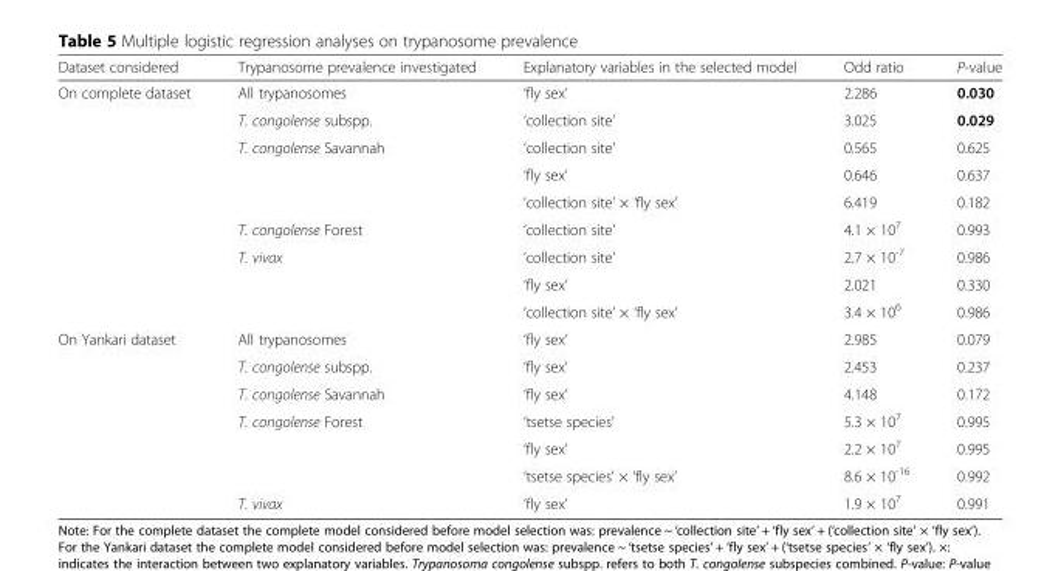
<table><thead><tr><td>Dataset considered</td><td>Trypanosome prevalence investigated</td><td>Explanatory variables in the selected model</td><td>Odd ratio</td><td>P-value</td></tr></thead><tbody><tr><td rowspan="9">On complete dataset</td><td>All trypanosomes</td><td>‘fly sex’</td><td>2.286</td><td>0.030</td></tr><tr><td>T. congolense subspp.</td><td>‘collection site’</td><td>3.025</td><td>0.029</td></tr><tr><td rowspan="3">T. congolense Savannah</td><td>‘collection site’</td><td>0.565</td><td>0.625</td></tr><tr><td>‘fly sex’</td><td>0.646</td><td>0.637</td></tr><tr><td>‘collection site’ × ‘fly sex’</td><td>6.419</td><td>0.182</td></tr><tr><td>T. congolense Forest</td><td>‘collection site’</td><td>4.1 × 10<sup>7</sup></td><td>0.993</td></tr><tr><td rowspan="3">T. vivax</td><td>‘collection site’</td><td>2.7 × 10<sup>-7</sup></td><td>0.986</td></tr><tr><td>‘fly sex’</td><td>2.021</td><td>0.330</td></tr><tr><td>‘collection site’ × ‘fly sex’</td><td>3.4 × 10<sup>6</sup></td><td>0.986</td></tr><tr><td rowspan="7">On Yankari dataset</td><td>All trypanosomes</td><td>‘fly sex’</td><td>2.985</td><td>0.079</td></tr><tr><td>T. congolense subspp.</td><td>‘fly sex’</td><td>2.453</td><td>0.237</td></tr><tr><td>T. congolense Savannah</td><td>‘fly sex’</td><td>4.148</td><td>0.172</td></tr><tr><td rowspan="3">T. congolense Forest</td><td>‘tsetse species’</td><td>5.3 × 10<sup>7</sup></td><td>0.995</td></tr><tr><td>‘fly sex’</td><td>2.2 × 10<sup>7</sup></td><td>0.995</td></tr><tr><td>‘tsetse species’ × ‘fly sex’</td><td>8.6 × 10<sup>-16</sup></td><td>0.992</td></tr><tr><td>T. vivax</td><td>‘fly sex’</td><td>1.9 × 10<sup>7</sup></td><td>0.991</td></tr></tbody></table>